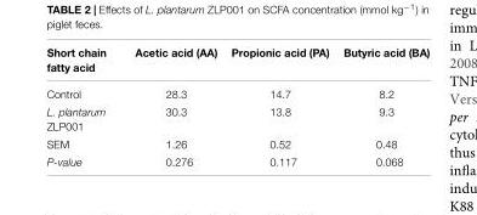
<table><thead><tr><td>Short chain fatty acid</td><td>Acetic acid (AA)</td><td>Propionic acid (PA)</td><td>Butyric acid (BA)</td></tr></thead><tbody><tr><td>Control</td><td>28.3</td><td>14.7</td><td>8.2</td></tr><tr><td>L. plantarum ZLP001</td><td>30.3</td><td>13.8</td><td>9.3</td></tr><tr><td>SEM</td><td>1.26</td><td>0.52</td><td>0.48</td></tr><tr><td>P-value</td><td>0.276</td><td>0.117</td><td>0.068</td></tr></tbody></table>